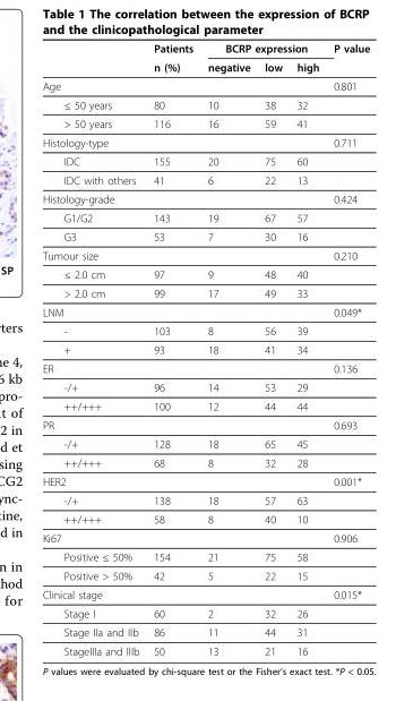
<table><thead><tr><td rowspan="2"></td><td rowspan="2">Patients n (%)</td><td colspan="3">BCRP expression</td><td rowspan="2">P value</td></tr><tr><td>negative</td><td>low</td><td>high</td></tr></thead><tbody><tr><td>Age</td><td></td><td></td><td></td><td></td><td>0.801</td></tr><tr><td>≤ 50 years</td><td>80</td><td>10</td><td>38</td><td>32</td><td></td></tr><tr><td>&gt; 50 years</td><td>116</td><td>16</td><td>59</td><td>41</td><td></td></tr><tr><td>Histology-type</td><td></td><td></td><td></td><td></td><td>0.711</td></tr><tr><td>IDC</td><td>155</td><td>20</td><td>75</td><td>60</td><td></td></tr><tr><td>IDC with others</td><td>41</td><td>6</td><td>22</td><td>13</td><td></td></tr><tr><td>Histology-grade</td><td></td><td></td><td></td><td></td><td>0.424</td></tr><tr><td>G1/G2</td><td>143</td><td>19</td><td>67</td><td>57</td><td></td></tr><tr><td>G3</td><td>53</td><td>7</td><td>30</td><td>16</td><td></td></tr><tr><td>Tumour size</td><td></td><td></td><td></td><td></td><td>0.210</td></tr><tr><td>≤ 2.0 cm</td><td>97</td><td>9</td><td>48</td><td>40</td><td></td></tr><tr><td>&gt; 2.0 cm</td><td>99</td><td>17</td><td>49</td><td>33</td><td></td></tr><tr><td>LNM</td><td></td><td></td><td></td><td></td><td>0.049*</td></tr><tr><td>-</td><td>103</td><td>8</td><td>56</td><td>39</td><td></td></tr><tr><td>+</td><td>93</td><td>18</td><td>41</td><td>34</td><td></td></tr><tr><td>ER</td><td></td><td></td><td></td><td></td><td>0.136</td></tr><tr><td>-/+</td><td>96</td><td>14</td><td>53</td><td>29</td><td></td></tr><tr><td>++/+++</td><td>100</td><td>12</td><td>44</td><td>44</td><td></td></tr><tr><td>PR</td><td></td><td></td><td></td><td></td><td>0.693</td></tr><tr><td>-/+</td><td>128</td><td>18</td><td>65</td><td>45</td><td></td></tr><tr><td>++/+++</td><td>68</td><td>8</td><td>32</td><td>28</td><td></td></tr><tr><td>HER2</td><td></td><td></td><td></td><td></td><td>0.001*</td></tr><tr><td>-/+</td><td>138</td><td>18</td><td>57</td><td>63</td><td></td></tr><tr><td>++/+++</td><td>58</td><td>8</td><td>40</td><td>10</td><td></td></tr><tr><td>Ki67</td><td></td><td></td><td></td><td></td><td>0.906</td></tr><tr><td>Positive ≤ 50%</td><td>154</td><td>21</td><td>75</td><td>58</td><td></td></tr><tr><td>Positive &gt; 50%</td><td>42</td><td>5</td><td>22</td><td>15</td><td></td></tr><tr><td>Clinical stage</td><td></td><td></td><td></td><td></td><td>0.015*</td></tr><tr><td>Stage I</td><td>60</td><td>2</td><td>32</td><td>26</td><td></td></tr><tr><td>Stage IIa and IIb</td><td>86</td><td>11</td><td>44</td><td>31</td><td></td></tr><tr><td>StageIIIa and IIIb</td><td>50</td><td>13</td><td>21</td><td>16</td><td></td></tr></tbody></table>